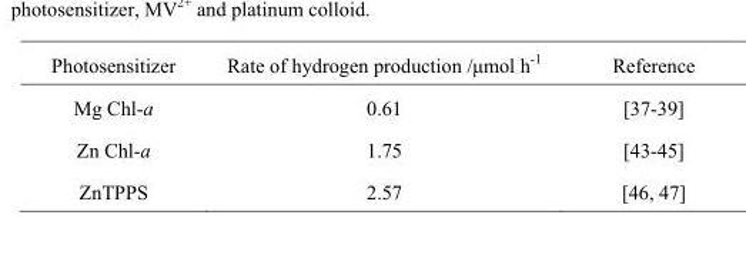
<table><thead><tr><td>Photosensitizer</td><td>Rate of hydrogen production /μmol h<sup>-1</sup></td><td>Reference</td></tr></thead><tbody><tr><td>Mg Chl-a</td><td>0.61</td><td>[37-39]</td></tr><tr><td>Zn Chl-a</td><td>1.75</td><td>[43-45]</td></tr><tr><td>ZnTPPS</td><td>2.57</td><td>[46, 47]</td></tr></tbody></table>